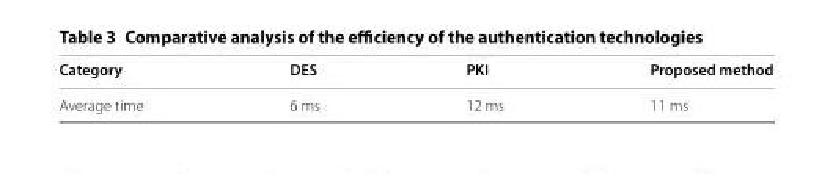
<table><thead><tr><td>Category</td><td>DES</td><td>PKI</td><td>Proposed method</td></tr></thead><tbody><tr><td>Average time</td><td>6 ms</td><td>12 ms</td><td>11 ms</td></tr></tbody></table>